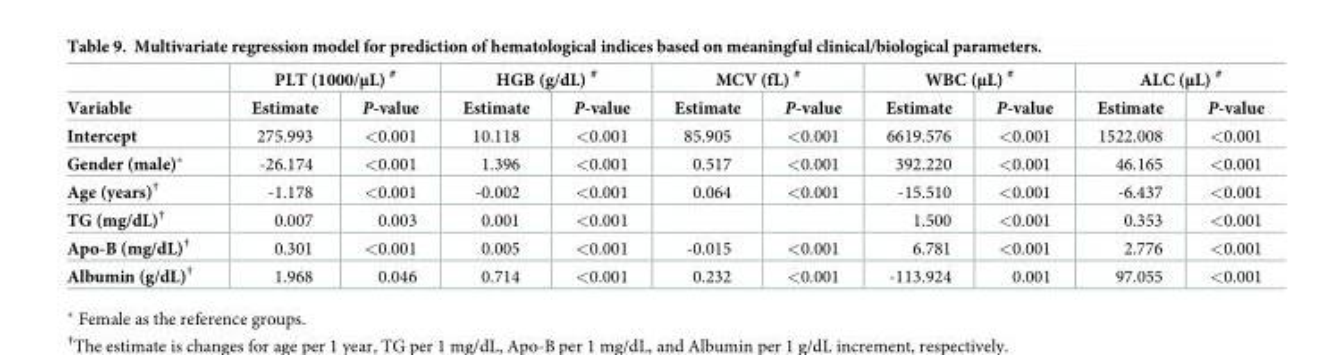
<table><thead><tr><td rowspan="2">Variable</td><td colspan="2">PLT (1000/μL) <sup>#</sup></td><td colspan="2">HGB (g/dL) <sup>#</sup></td><td colspan="2">MCV (fL) <sup>#</sup></td><td colspan="2">WBC (μL) <sup>#</sup></td><td colspan="2">ALC (μL) <sup>#</sup></td></tr><tr><td>Estimate</td><td>P-value</td><td>Estimate</td><td>P-value</td><td>Estimate</td><td>P-value</td><td>Estimate</td><td>P-value</td><td>Estimate</td><td>P-value</td></tr></thead><tbody><tr><td>Intercept</td><td>275.993</td><td>&lt;0.001</td><td>10.118</td><td>&lt;0.001</td><td>85.905</td><td>&lt;0.001</td><td>6619.576</td><td>&lt;0.001</td><td>1522.008</td><td>&lt;0.001</td></tr><tr><td>Gender (male)*</td><td>-26.174</td><td>&lt;0.001</td><td>1.396</td><td>&lt;0.001</td><td>0.517</td><td>&lt;0.001</td><td>392.220</td><td>&lt;0.001</td><td>46.165</td><td>&lt;0.001</td></tr><tr><td>Age (years)<sup>†</sup></td><td>-1.178</td><td>&lt;0.001</td><td>-0.002</td><td>&lt;0.001</td><td>0.064</td><td>&lt;0.001</td><td>-15.510</td><td>&lt;0.001</td><td>-6.437</td><td>&lt;0.001</td></tr><tr><td>TG (mg/dL)<sup>†</sup></td><td>0.007</td><td>0.003</td><td>0.001</td><td>&lt;0.001</td><td></td><td></td><td>1.500</td><td>&lt;0.001</td><td>0.353</td><td>&lt;0.001</td></tr><tr><td>Apo-B (mg/dL)<sup>†</sup></td><td>0.301</td><td>&lt;0.001</td><td>0.005</td><td>&lt;0.001</td><td>-0.015</td><td>&lt;0.001</td><td>6.781</td><td>&lt;0.001</td><td>2.776</td><td>&lt;0.001</td></tr><tr><td>Albumin (g/dL)<sup>†</sup></td><td>1.968</td><td>0.046</td><td>0.714</td><td>&lt;0.001</td><td>0.232</td><td>&lt;0.001</td><td>-113.924</td><td>0.001</td><td>97.055</td><td>&lt;0.001</td></tr></tbody></table>